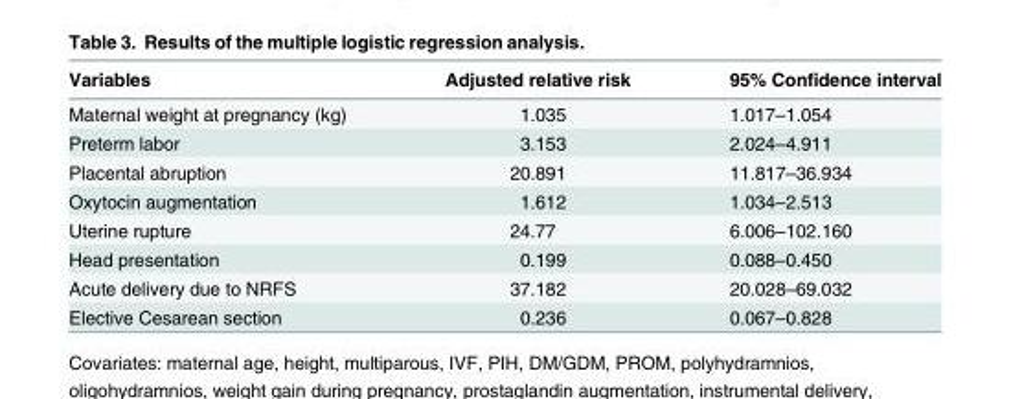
<table><thead><tr><td>Variables</td><td>Adjusted relative risk</td><td>95% Confidence interval</td></tr></thead><tbody><tr><td>Maternal weight at pregnancy (kg)</td><td>1.035</td><td>1.017–1.054</td></tr><tr><td>Preterm labor</td><td>3.153</td><td>2.024–4.911</td></tr><tr><td>Placental abruption</td><td>20.891</td><td>11.817–36.934</td></tr><tr><td>Oxytocin augmentation</td><td>1.612</td><td>1.034–2.513</td></tr><tr><td>Uterine rupture</td><td>24.77</td><td>6.006–102.160</td></tr><tr><td>Head presentation</td><td>0.199</td><td>0.088–0.450</td></tr><tr><td>Acute delivery due to NRFS</td><td>37.182</td><td>20.028–69.032</td></tr><tr><td>Elective Cesarean section</td><td>0.236</td><td>0.067–0.828</td></tr></tbody></table>